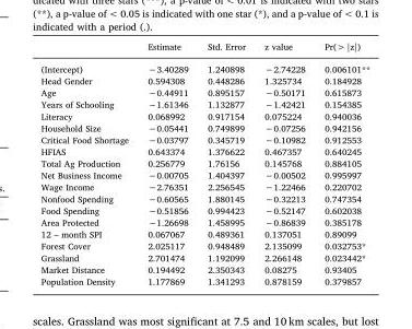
<table><thead><tr><td></td><td>Estimate</td><td>Std. Error</td><td>z value</td><td>Pr(&gt; |z|)</td></tr></thead><tbody><tr><td>(Intercept)</td><td>−3.40289</td><td>1.240898</td><td>−2.74228</td><td>0.006101**</td></tr><tr><td>Head Gender</td><td>0.594308</td><td>0.448286</td><td>1.325734</td><td>0.184928</td></tr><tr><td>Age</td><td>−0.44911</td><td>0.895157</td><td>−0.50171</td><td>0.615873</td></tr><tr><td>Years of Schooling</td><td>−1.61346</td><td>1.132877</td><td>−1.42421</td><td>0.154385</td></tr><tr><td>Literacy</td><td>0.068992</td><td>0.917154</td><td>0.075224</td><td>0.940036</td></tr><tr><td>Household Size</td><td>−0.05441</td><td>0.749899</td><td>−0.07256</td><td>0.942156</td></tr><tr><td>Critical Food Shortage</td><td>−0.03797</td><td>0.345719</td><td>−0.10982</td><td>0.912553</td></tr><tr><td>HFIAS</td><td>0.643374</td><td>1.376622</td><td>0.467357</td><td>0.640245</td></tr><tr><td>Total Ag Production</td><td>0.256779</td><td>1.76156</td><td>0.145768</td><td>0.884105</td></tr><tr><td>Net Business Income</td><td>−0.00705</td><td>1.404397</td><td>−0.00502</td><td>0.995997</td></tr><tr><td>Wage Income</td><td>−2.76351</td><td>2.256545</td><td>−1.22466</td><td>0.220702</td></tr><tr><td>Nonfood Spending</td><td>−0.60565</td><td>1.880145</td><td>−0.32213</td><td>0.747354</td></tr><tr><td>Food Spending</td><td>−0.51856</td><td>0.994423</td><td>−0.52147</td><td>0.602038</td></tr><tr><td>Area Protected</td><td>−1.26698</td><td>1.458995</td><td>−0.86839</td><td>0.385178</td></tr><tr><td>12 – month SPI</td><td>0.067067</td><td>0.489361</td><td>0.137051</td><td>0.89099</td></tr><tr><td>Forest Cover</td><td>2.025117</td><td>0.948489</td><td>2.135099</td><td>0.032753*</td></tr><tr><td>Grassland</td><td>2.701474</td><td>1.192099</td><td>2.266148</td><td>0.023442*</td></tr><tr><td>Market Distance</td><td>0.194492</td><td>2.350343</td><td>0.08275</td><td>0.93405</td></tr><tr><td>Population Density</td><td>1.177869</td><td>1.341293</td><td>0.878159</td><td>0.379857</td></tr></tbody></table>